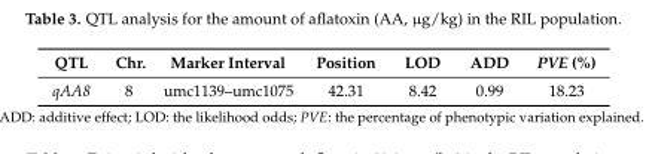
<table><thead><tr><td>QTL</td><td>Chr.</td><td>Marker Interval</td><td>Position</td><td>LOD</td><td>ADD</td><td>PVE (%)</td></tr></thead><tbody><tr><td>qAA8</td><td>8</td><td>umc1139–umc1075</td><td>42.31</td><td>8.42</td><td>0.99</td><td>18.23</td></tr></tbody></table>